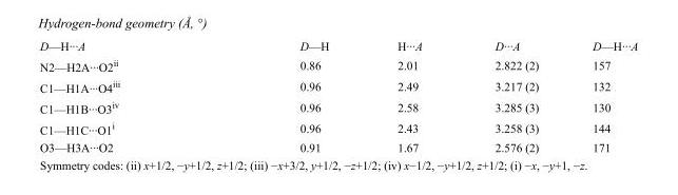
<table><tbody><tr><td>D—H···A</td><td>D—H</td><td>H···A</td><td>D···A</td><td>D—H···A</td></tr><tr><td>N2—H2A···O2<sup>ii</sup></td><td>0.86</td><td>2.01</td><td>2.822 (2)</td><td>157</td></tr><tr><td>C1—H1A···O4<sup>iii</sup></td><td>0.96</td><td>2.49</td><td>3.217 (2)</td><td>132</td></tr><tr><td>C1—H1B···O3<sup>iv</sup></td><td>0.96</td><td>2.58</td><td>3.285 (3)</td><td>130</td></tr><tr><td>C1—H1C···O1<sup>i</sup></td><td>0.96</td><td>2.43</td><td>3.258 (3)</td><td>144</td></tr><tr><td>O3—H3A···O2</td><td>0.91</td><td>1.67</td><td>2.576 (2)</td><td>171</td></tr></tbody></table>